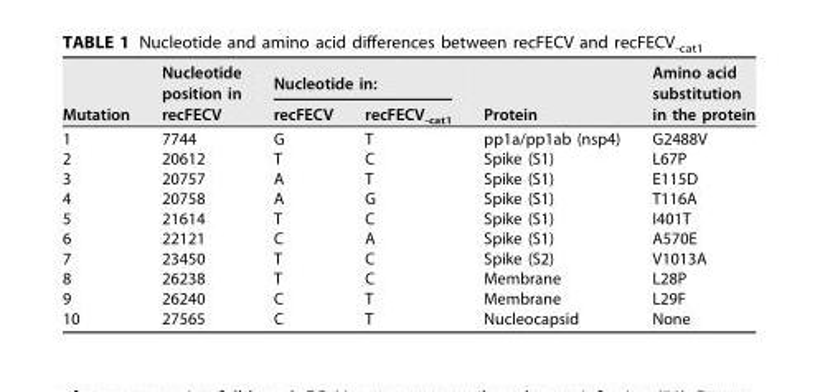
<table><thead><tr><td rowspan="2">Mutation</td><td rowspan="2">Nucleotide position in recFECV</td><td colspan="2">Nucleotide in:</td><td rowspan="2">Protein</td><td rowspan="2">Amino acid substitution in the protein</td></tr><tr><td>recFECV</td><td>recFECV<sub>-cat1</sub></td></tr></thead><tbody><tr><td>1</td><td>7744</td><td>G</td><td>T</td><td>pp1a/pp1ab (nsp4)</td><td>G2488V</td></tr><tr><td>2</td><td>20612</td><td>T</td><td>C</td><td>Spike (S1)</td><td>L67P</td></tr><tr><td>3</td><td>20757</td><td>A</td><td>T</td><td>Spike (S1)</td><td>E115D</td></tr><tr><td>4</td><td>20758</td><td>A</td><td>G</td><td>Spike (S1)</td><td>T116A</td></tr><tr><td>5</td><td>21614</td><td>T</td><td>C</td><td>Spike (S1)</td><td>I401T</td></tr><tr><td>6</td><td>22121</td><td>C</td><td>A</td><td>Spike (S1)</td><td>A570E</td></tr><tr><td>7</td><td>23450</td><td>T</td><td>C</td><td>Spike (S2)</td><td>V1013A</td></tr><tr><td>8</td><td>26238</td><td>T</td><td>C</td><td>Membrane</td><td>L28P</td></tr><tr><td>9</td><td>26240</td><td>C</td><td>T</td><td>Membrane</td><td>L29F</td></tr><tr><td>10</td><td>27565</td><td>C</td><td>T</td><td>Nucleocapsid</td><td>None</td></tr></tbody></table>